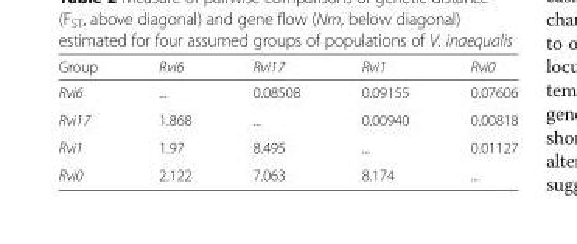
<table><thead><tr><td>Group</td><td>Rvi6</td><td>Rvi17</td><td>Rvi1</td><td>Rvi0</td></tr></thead><tbody><tr><td>Rvi6</td><td>...</td><td>0.08508</td><td>0.09155</td><td>0.07606</td></tr><tr><td>Rvi17</td><td>1.868</td><td>...</td><td>0.00940</td><td>0.00818</td></tr><tr><td>Rvi1</td><td>1.97</td><td>8.495</td><td>...</td><td>0.01127</td></tr><tr><td>Rvi0</td><td>2.122</td><td>7.063</td><td>8.174</td><td>...</td></tr></tbody></table>